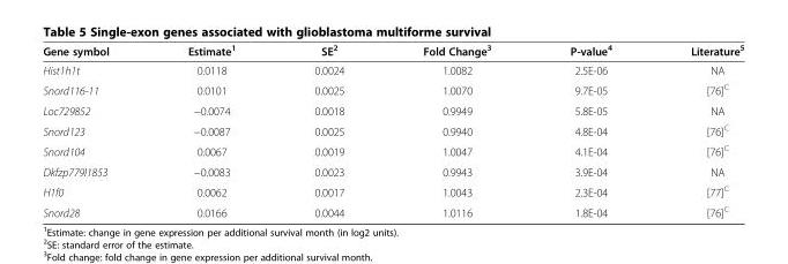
<table><thead><tr><td>Gene symbol</td><td>Estimate<sup>1</sup></td><td>SE<sup>2</sup></td><td>Fold Change<sup>3</sup></td><td>P-value<sup>4</sup></td><td>Literature<sup>5</sup></td></tr></thead><tbody><tr><td>Hist1h1t</td><td>0.0118</td><td>0.0024</td><td>1.0082</td><td>2.5E-06</td><td>NA</td></tr><tr><td>Snord116-11</td><td>0.0101</td><td>0.0025</td><td>1.0070</td><td>9.7E-05</td><td>[76]<sup>C</sup></td></tr><tr><td>Loc729852</td><td>−0.0074</td><td>0.0018</td><td>0.9949</td><td>5.8E-05</td><td>NA</td></tr><tr><td>Snord123</td><td>−0.0087</td><td>0.0025</td><td>0.9940</td><td>4.8E-04</td><td>[76]<sup>C</sup></td></tr><tr><td>Snord104</td><td>0.0067</td><td>0.0019</td><td>1.0047</td><td>4.1E-04</td><td>[76]<sup>C</sup></td></tr><tr><td>Dkfzp779l1853</td><td>−0.0083</td><td>0.0023</td><td>0.9943</td><td>3.9E-04</td><td>NA</td></tr><tr><td>H1f0</td><td>0.0062</td><td>0.0017</td><td>1.0043</td><td>2.3E-04</td><td>[77]<sup>C</sup></td></tr><tr><td>Snord28</td><td>0.0166</td><td>0.0044</td><td>1.0116</td><td>1.8E-04</td><td>[76]<sup>C</sup></td></tr></tbody></table>